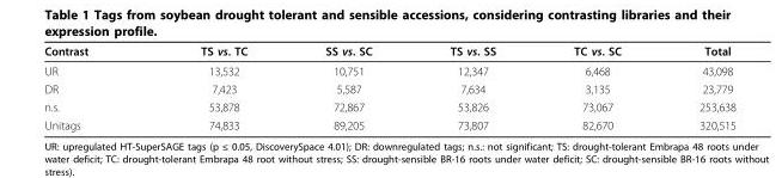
<table><thead><tr><td>Contrast</td><td>TS vs. TC</td><td>SS vs. SC</td><td>TS vs. SS</td><td>TC vs. SC</td><td>Total</td></tr></thead><tbody><tr><td>UR</td><td>13,532</td><td>10,751</td><td>12,347</td><td>6,468</td><td>43,098</td></tr><tr><td>DR</td><td>7,423</td><td>5,587</td><td>7,634</td><td>3,135</td><td>23,779</td></tr><tr><td>n.s.</td><td>53,878</td><td>72,867</td><td>53,826</td><td>73,067</td><td>253,638</td></tr><tr><td>Unitags</td><td>74,833</td><td>89,205</td><td>73,807</td><td>82,670</td><td>320,515</td></tr></tbody></table>